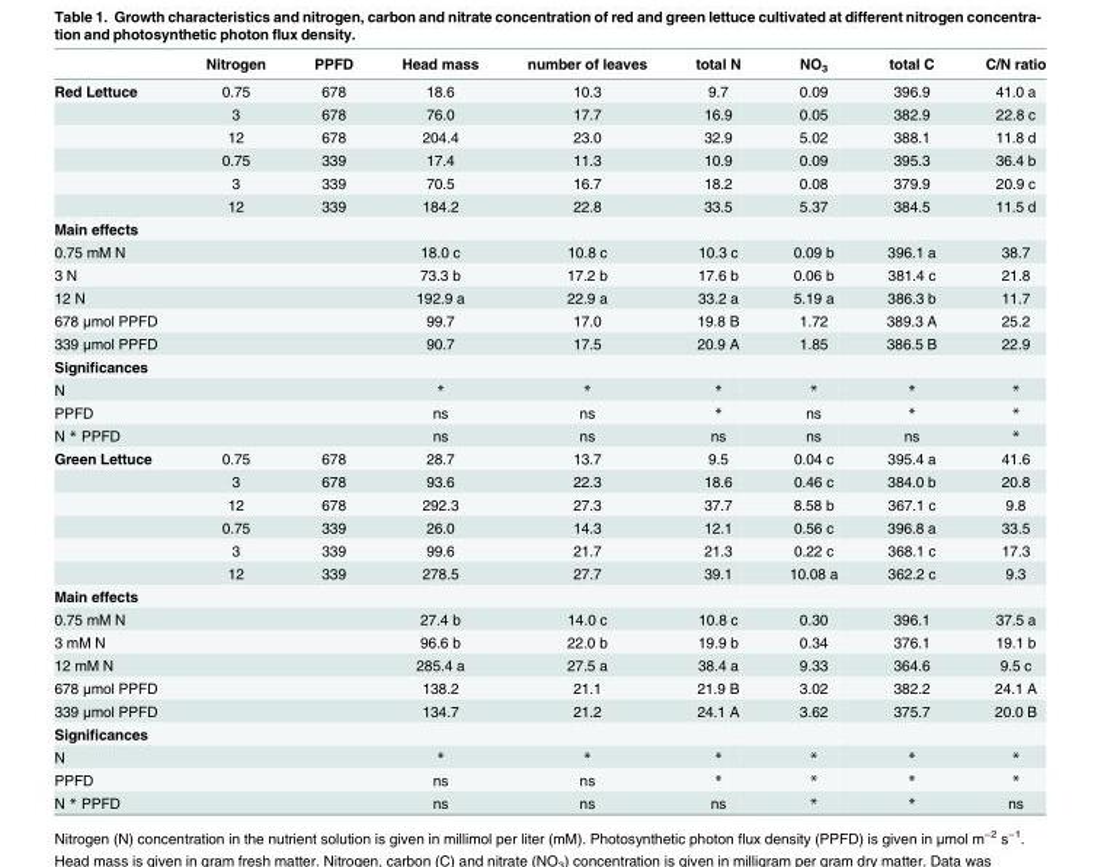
<table><thead><tr><td></td><td>Nitrogen</td><td>PPFD</td><td>Head mass</td><td>number of leaves</td><td>total N</td><td>NO<sub>3</sub></td><td>total C</td><td>C/N ratio</td></tr></thead><tbody><tr><td rowspan="6">Red Lettuce</td><td>0.75</td><td>678</td><td>18.6</td><td>10.3</td><td>9.7</td><td>0.09</td><td>396.9</td><td>41.0 a</td></tr><tr><td>3</td><td>678</td><td>76.0</td><td>17.7</td><td>16.9</td><td>0.05</td><td>382.9</td><td>22.8 c</td></tr><tr><td>12</td><td>678</td><td>204.4</td><td>23.0</td><td>32.9</td><td>5.02</td><td>388.1</td><td>11.8 d</td></tr><tr><td>0.75</td><td>339</td><td>17.4</td><td>11.3</td><td>10.9</td><td>0.09</td><td>395.3</td><td>36.4 b</td></tr><tr><td>3</td><td>339</td><td>70.5</td><td>16.7</td><td>18.2</td><td>0.08</td><td>379.9</td><td>20.9 c</td></tr><tr><td>12</td><td>339</td><td>184.2</td><td>22.8</td><td>33.5</td><td>5.37</td><td>384.5</td><td>11.5 d</td></tr><tr><td colspan="9">Main effects</td></tr><tr><td>0.75 mM N</td><td></td><td></td><td>18.0 c</td><td>10.8 c</td><td>10.3 c</td><td>0.09 b</td><td>396.1 a</td><td>38.7</td></tr><tr><td>3 N</td><td></td><td></td><td>73.3 b</td><td>17.2 b</td><td>17.6 b</td><td>0.06 b</td><td>381.4 c</td><td>21.8</td></tr><tr><td>12 N</td><td></td><td></td><td>192.9 a</td><td>22.9 a</td><td>33.2 a</td><td>5.19 a</td><td>386.3 b</td><td>11.7</td></tr><tr><td>678 μmol PPFD</td><td></td><td></td><td>99.7</td><td>17.0</td><td>19.8 B</td><td>1.72</td><td>389.3 A</td><td>25.2</td></tr><tr><td>339 μmol PPFD</td><td></td><td></td><td>90.7</td><td>17.5</td><td>20.9 A</td><td>1.85</td><td>386.5 B</td><td>22.9</td></tr><tr><td colspan="9">Significances</td></tr><tr><td>N</td><td></td><td></td><td>*</td><td>*</td><td>*</td><td>*</td><td>*</td><td>*</td></tr><tr><td>PPFD</td><td></td><td></td><td>ns</td><td>ns</td><td>*</td><td>ns</td><td>*</td><td>*</td></tr><tr><td>N * PPFD</td><td></td><td></td><td>ns</td><td>ns</td><td>ns</td><td>ns</td><td>ns</td><td>*</td></tr><tr><td rowspan="6">Green Lettuce</td><td>0.75</td><td>678</td><td>28.7</td><td>13.7</td><td>9.5</td><td>0.04 c</td><td>395.4 a</td><td>41.6</td></tr><tr><td>3</td><td>678</td><td>93.6</td><td>22.3</td><td>18.6</td><td>0.46 c</td><td>384.0 b</td><td>20.8</td></tr><tr><td>12</td><td>678</td><td>292.3</td><td>27.3</td><td>37.7</td><td>8.58 b</td><td>367.1 c</td><td>9.8</td></tr><tr><td>0.75</td><td>339</td><td>26.0</td><td>14.3</td><td>12.1</td><td>0.56 c</td><td>396.8 a</td><td>33.5</td></tr><tr><td>3</td><td>339</td><td>99.6</td><td>21.7</td><td>21.3</td><td>0.22 c</td><td>368.1 c</td><td>17.3</td></tr><tr><td>12</td><td>339</td><td>278.5</td><td>27.7</td><td>39.1</td><td>10.08 a</td><td>362.2 c</td><td>9.3</td></tr><tr><td colspan="9">Main effects</td></tr><tr><td>0.75 mM N</td><td></td><td></td><td>27.4 b</td><td>14.0 c</td><td>10.8 c</td><td>0.30</td><td>396.1</td><td>37.5 a</td></tr><tr><td>3 mM N</td><td></td><td></td><td>96.6 b</td><td>22.0 b</td><td>19.9 b</td><td>0.34</td><td>376.1</td><td>19.1 b</td></tr><tr><td>12 mM N</td><td></td><td></td><td>285.4 a</td><td>27.5 a</td><td>38.4 a</td><td>9.33</td><td>364.6</td><td>9.5 c</td></tr><tr><td>678 μmol PPFD</td><td></td><td></td><td>138.2</td><td>21.1</td><td>21.9 B</td><td>3.02</td><td>382.2</td><td>24.1 A</td></tr><tr><td>339 μmol PPFD</td><td></td><td></td><td>134.7</td><td>21.2</td><td>24.1 A</td><td>3.62</td><td>375.7</td><td>20.0 B</td></tr><tr><td colspan="9">Significances</td></tr><tr><td>N</td><td></td><td></td><td>*</td><td>*</td><td>*</td><td>*</td><td>*</td><td>*</td></tr><tr><td>PPFD</td><td></td><td></td><td>ns</td><td>ns</td><td>*</td><td>*</td><td>*</td><td>*</td></tr><tr><td>N * PPFD</td><td></td><td></td><td>ns</td><td>ns</td><td>ns</td><td>*</td><td>*</td><td>ns</td></tr></tbody></table>